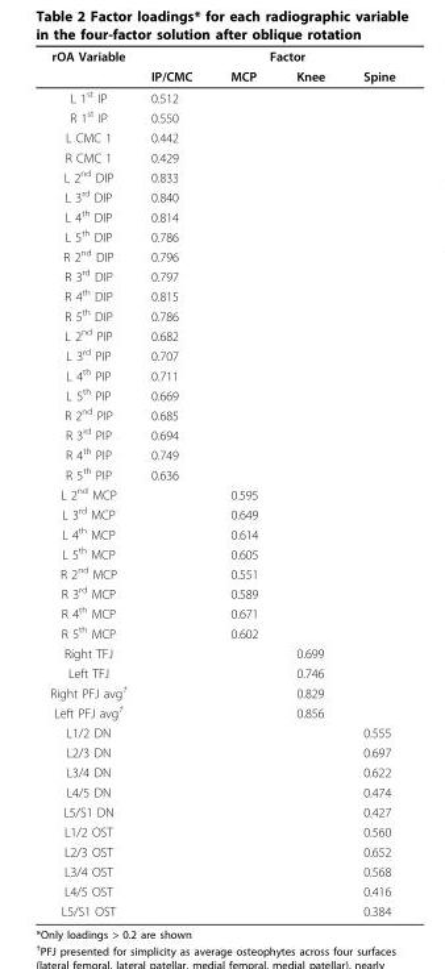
<table><thead><tr><td rowspan="2">rOA Variable</td><td colspan="4">Factor</td></tr><tr><td>IP/CMC</td><td>MCP</td><td>Knee</td><td>Spine</td></tr></thead><tbody><tr><td>L 1<sup>st</sup> IP</td><td>0.512</td><td></td><td></td><td></td></tr><tr><td>R 1<sup>st</sup> IP</td><td>0.550</td><td></td><td></td><td></td></tr><tr><td>L CMC 1</td><td>0.442</td><td></td><td></td><td></td></tr><tr><td>R CMC 1</td><td>0.429</td><td></td><td></td><td></td></tr><tr><td>L 2<sup>nd</sup> DIP</td><td>0.833</td><td></td><td></td><td></td></tr><tr><td>L 3<sup>rd</sup> DIP</td><td>0.840</td><td></td><td></td><td></td></tr><tr><td>L 4<sup>th</sup> DIP</td><td>0.814</td><td></td><td></td><td></td></tr><tr><td>L 5<sup>th</sup> DIP</td><td>0.786</td><td></td><td></td><td></td></tr><tr><td>R 2<sup>nd</sup> DIP</td><td>0.796</td><td></td><td></td><td></td></tr><tr><td>R 3<sup>rd</sup> DIP</td><td>0.797</td><td></td><td></td><td></td></tr><tr><td>R 4<sup>th</sup> DIP</td><td>0.815</td><td></td><td></td><td></td></tr><tr><td>R 5<sup>th</sup> DIP</td><td>0.786</td><td></td><td></td><td></td></tr><tr><td>L 2<sup>nd</sup> PIP</td><td>0.682</td><td></td><td></td><td></td></tr><tr><td>L 3<sup>rd</sup> PIP</td><td>0.707</td><td></td><td></td><td></td></tr><tr><td>L 4<sup>th</sup> PIP</td><td>0.711</td><td></td><td></td><td></td></tr><tr><td>L 5<sup>th</sup> PIP</td><td>0.669</td><td></td><td></td><td></td></tr><tr><td>R 2<sup>nd</sup> PIP</td><td>0.685</td><td></td><td></td><td></td></tr><tr><td>R 3<sup>rd</sup> PIP</td><td>0.694</td><td></td><td></td><td></td></tr><tr><td>R 4<sup>th</sup> PIP</td><td>0.749</td><td></td><td></td><td></td></tr><tr><td>R 5<sup>th</sup> PIP</td><td>0.636</td><td></td><td></td><td></td></tr><tr><td>L 2<sup>nd</sup> MCP</td><td></td><td>0.595</td><td></td><td></td></tr><tr><td>L 3<sup>rd</sup> MCP</td><td></td><td>0.649</td><td></td><td></td></tr><tr><td>L 4<sup>th</sup> MCP</td><td></td><td>0.614</td><td></td><td></td></tr><tr><td>L 5<sup>th</sup> MCP</td><td></td><td>0.605</td><td></td><td></td></tr><tr><td>R 2<sup>nd</sup> MCP</td><td></td><td>0.551</td><td></td><td></td></tr><tr><td>R 3<sup>rd</sup> MCP</td><td></td><td>0.589</td><td></td><td></td></tr><tr><td>R 4<sup>th</sup> MCP</td><td></td><td>0.671</td><td></td><td></td></tr><tr><td>R 5<sup>th</sup> MCP</td><td></td><td>0.602</td><td></td><td></td></tr><tr><td>Right TFJ</td><td></td><td></td><td>0.699</td><td></td></tr><tr><td>Left TFJ</td><td></td><td></td><td>0.746</td><td></td></tr><tr><td>Right PFJ avg<sup>†</sup></td><td></td><td></td><td>0.829</td><td></td></tr><tr><td>Left PFJ avg<sup>†</sup></td><td></td><td></td><td>0.856</td><td></td></tr><tr><td>L1/2 DN</td><td></td><td></td><td></td><td>0.555</td></tr><tr><td>L2/3 DN</td><td></td><td></td><td></td><td>0.697</td></tr><tr><td>L3/4 DN</td><td></td><td></td><td></td><td>0.622</td></tr><tr><td>L4/5 DN</td><td></td><td></td><td></td><td>0.474</td></tr><tr><td>L5/S1 DN</td><td></td><td></td><td></td><td>0.427</td></tr><tr><td>L1/2 OST</td><td></td><td></td><td></td><td>0.560</td></tr><tr><td>L2/3 OST</td><td></td><td></td><td></td><td>0.652</td></tr><tr><td>L3/4 OST</td><td></td><td></td><td></td><td>0.568</td></tr><tr><td>L4/5 OST</td><td></td><td></td><td></td><td>0.416</td></tr><tr><td>L5/S1 OST</td><td></td><td></td><td></td><td>0.384</td></tr></tbody></table>